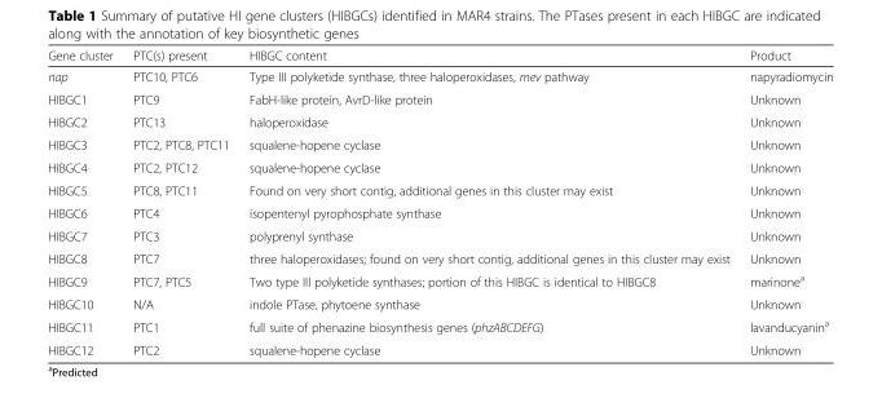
<table><thead><tr><td>Gene cluster</td><td>PTC(s) present</td><td>HIBGC content</td><td>Product</td></tr></thead><tbody><tr><td>nap</td><td>PTC10, PTC6</td><td>Type III polyketide synthase, three haloperoxidases, mev pathway</td><td>napyradiomycin</td></tr><tr><td>HIBGC1</td><td>PTC9</td><td>FabH-like protein, AvrD-like protein</td><td>Unknown</td></tr><tr><td>HIBGC2</td><td>PTC13</td><td>haloperoxidase</td><td>Unknown</td></tr><tr><td>HIBGC3</td><td>PTC2, PTC8, PTC11</td><td>squalene-hopene cyclase</td><td>Unknown</td></tr><tr><td>HIBGC4</td><td>PTC2, PTC12</td><td>squalene-hopene cyclase</td><td>Unknown</td></tr><tr><td>HIBGC5</td><td>PTC8, PTC11</td><td>Found on very short contig, additional genes in this cluster may exist</td><td>Unknown</td></tr><tr><td>HIBGC6</td><td>PTC4</td><td>isopentenyl pyrophosphate synthase</td><td>Unknown</td></tr><tr><td>HIBGC7</td><td>PTC3</td><td>polyprenyl synthase</td><td>Unknown</td></tr><tr><td>HIBGC8</td><td>PTC7</td><td>three haloperoxidases; found on very short contig, additional genes in this cluster may exist</td><td>Unknown</td></tr><tr><td>HIBGC9</td><td>PTC7, PTC5</td><td>Two type III polyketide synthases; portion of this HIBGC is identical to HIBGC8</td><td>marinone<sup>a</sup></td></tr><tr><td>HIBGC10</td><td>N/A</td><td>indole PTase, phytoene synthase</td><td>Unknown</td></tr><tr><td>HIBGC11</td><td>PTC1</td><td>full suite of phenazine biosynthesis genes (phzABCDEFG)</td><td>lavanducyanin<sup>a</sup></td></tr><tr><td>HIBGC12</td><td>PTC2</td><td>squalene-hopene cyclase</td><td>Unknown</td></tr></tbody></table>